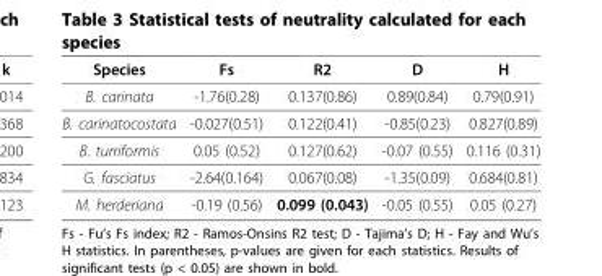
<table><thead><tr><td>Species</td><td>Fs</td><td>R2</td><td>D</td><td>H</td></tr></thead><tbody><tr><td>B. carinata</td><td>-1.76(0.28)</td><td>0.137(0.86)</td><td>0.89(0.84)</td><td>0.79(0.91)</td></tr><tr><td>B. carinatocostata</td><td>-0.027(0.51)</td><td>0.122(0.41)</td><td>-0.85(0.23)</td><td>0.827(0.89)</td></tr><tr><td>B. turriformis</td><td>0.05 (0.52)</td><td>0.127(0.62)</td><td>-0.07 (0.55)</td><td>0.116 (0.31)</td></tr><tr><td>G. fasciatus</td><td>-2.64(0.164)</td><td>0.067(0.08)</td><td>-1.35(0.09)</td><td>0.684(0.81)</td></tr><tr><td>M. herderiana</td><td>-0.19 (0.56)</td><td>0.099 (0.043)</td><td>-0.05 (0.55)</td><td>0.05 (0.27)</td></tr></tbody></table>